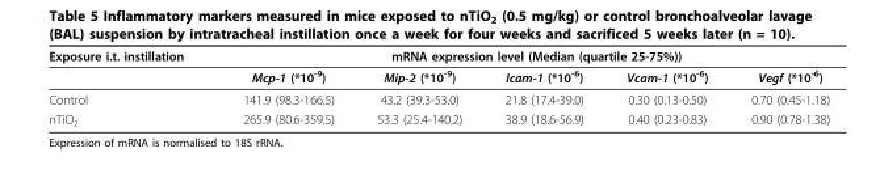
<table><thead><tr><td rowspan="2">Exposure i.t. instillation</td><td colspan="5">mRNA expression level (Median (quartile 25-75%))</td></tr><tr><td>Mcp-1 (*10<sup>-9</sup>)</td><td>Mip-2 (*10<sup>-9</sup>)</td><td>Icam-1 (*10<sup>-6</sup>)</td><td>Vcam-1 (*10<sup>-6</sup>)</td><td>Vegf (*10<sup>-6</sup>)</td></tr></thead><tbody><tr><td>Control</td><td>141.9 (98.3-166.5)</td><td>43.2 (39.3-53.0)</td><td>21.8 (17.4-39.0)</td><td>0.30 (0.13-0.50)</td><td>0.70 (0.45-1.18)</td></tr><tr><td>nTiO<sub>2</sub></td><td>265.9 (80.6-359.5)</td><td>53.3 (25.4-140.2)</td><td>38.9 (18.6-56.9)</td><td>0.40 (0.23-0.83)</td><td>0.90 (0.78-1.38)</td></tr></tbody></table>